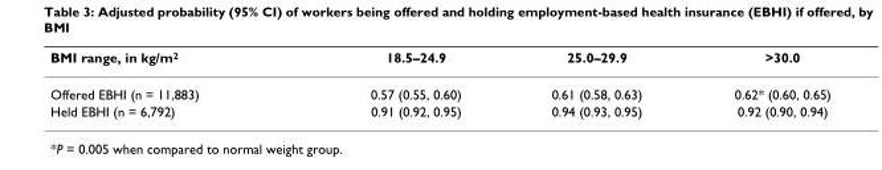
<table><thead><tr><td>BMI range, in kg/m<sup>2</sup></td><td>18.5–24.9</td><td>25.0–29.9</td><td>&gt;30.0</td></tr></thead><tbody><tr><td>Offered EBHI (n = 11,883)</td><td>0.57 (0.55, 0.60)</td><td>0.61 (0.58, 0.63)</td><td>0.62* (0.60, 0.65)</td></tr><tr><td>Held EBHI (n = 6,792)</td><td>0.91 (0.92, 0.95)</td><td>0.94 (0.93, 0.95)</td><td>0.92 (0.90, 0.94)</td></tr></tbody></table>